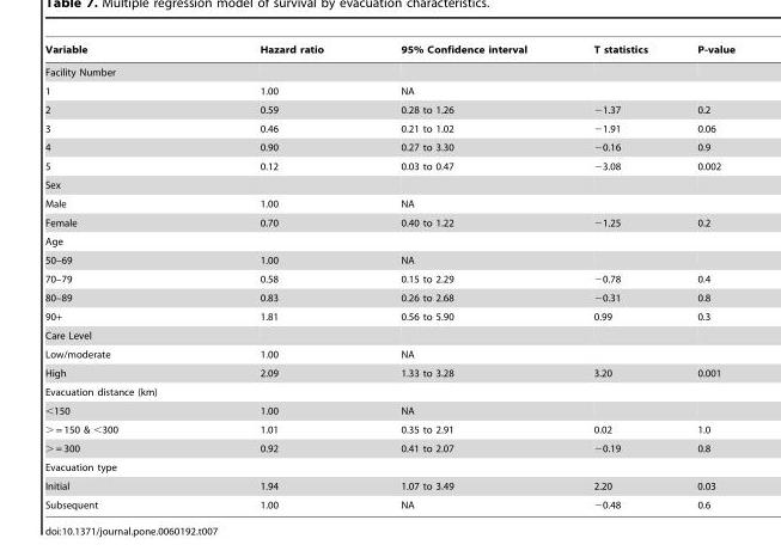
<table><thead><tr><td>Variable</td><td>Hazard ratio</td><td>95% Confidence interval</td><td>T statistics</td><td>P-value</td></tr></thead><tbody><tr><td colspan="5">Facility Number</td></tr><tr><td>1</td><td>1.00</td><td>NA</td><td></td><td></td></tr><tr><td>2</td><td>0.59</td><td>0.28 to 1.26</td><td>−1.37</td><td>0.2</td></tr><tr><td>3</td><td>0.46</td><td>0.21 to 1.02</td><td>−1.91</td><td>0.06</td></tr><tr><td>4</td><td>0.90</td><td>0.27 to 3.30</td><td>−0.16</td><td>0.9</td></tr><tr><td>5</td><td>0.12</td><td>0.03 to 0.47</td><td>−3.08</td><td>0.002</td></tr><tr><td colspan="5">Sex</td></tr><tr><td>Male</td><td>1.00</td><td>NA</td><td></td><td></td></tr><tr><td>Female</td><td>0.70</td><td>0.40 to 1.22</td><td>−1.25</td><td>0.2</td></tr><tr><td colspan="5">Age</td></tr><tr><td>50–69</td><td>1.00</td><td>NA</td><td></td><td></td></tr><tr><td>70–79</td><td>0.58</td><td>0.15 to 2.29</td><td>−0.78</td><td>0.4</td></tr><tr><td>80–89</td><td>0.83</td><td>0.26 to 2.68</td><td>−0.31</td><td>0.8</td></tr><tr><td>90+</td><td>1.81</td><td>0.56 to 5.90</td><td>0.99</td><td>0.3</td></tr><tr><td colspan="5">Care Level</td></tr><tr><td>Low/moderate</td><td>1.00</td><td>NA</td><td></td><td></td></tr><tr><td>High</td><td>2.09</td><td>1.33 to 3.28</td><td>3.20</td><td>0.001</td></tr><tr><td colspan="5">Evacuation distance (km)</td></tr><tr><td>&lt;150</td><td>1.00</td><td>NA</td><td></td><td></td></tr><tr><td>&gt; = 150 &amp; &lt;300</td><td>1.01</td><td>0.35 to 2.91</td><td>0.02</td><td>1.0</td></tr><tr><td>&gt; = 300</td><td>0.92</td><td>0.41 to 2.07</td><td>−0.19</td><td>0.8</td></tr><tr><td colspan="5">Evacuation type</td></tr><tr><td>Initial</td><td>1.94</td><td>1.07 to 3.49</td><td>2.20</td><td>0.03</td></tr><tr><td>Subsequent</td><td>1.00</td><td>NA</td><td>−0.48</td><td>0.6</td></tr></tbody></table>